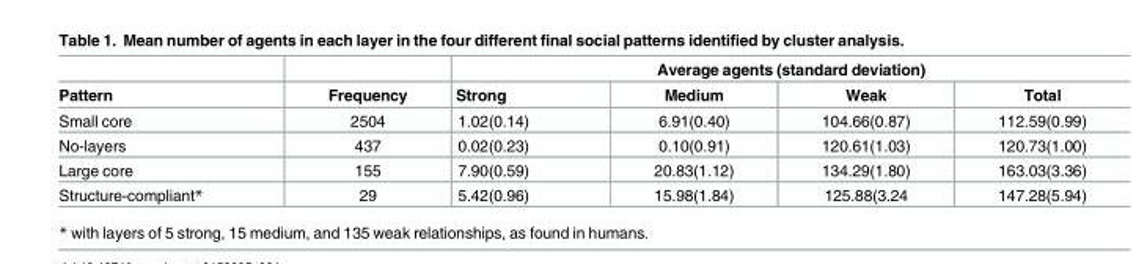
<table><thead><tr><td rowspan="2">Pattern</td><td rowspan="2">Frequency</td><td colspan="4">Average agents (standard deviation)</td></tr><tr><td>Strong</td><td>Medium</td><td>Weak</td><td>Total</td></tr></thead><tbody><tr><td>Small core</td><td>2504</td><td>1.02(0.14)</td><td>6.91(0.40)</td><td>104.66(0.87)</td><td>112.59(0.99)</td></tr><tr><td>No-layers</td><td>437</td><td>0.02(0.23)</td><td>0.10(0.91)</td><td>120.61(1.03)</td><td>120.73(1.00)</td></tr><tr><td>Large core</td><td>155</td><td>7.90(0.59)</td><td>20.83(1.12)</td><td>134.29(1.80)</td><td>163.03(3.36)</td></tr><tr><td>Structure-compliant*</td><td>29</td><td>5.42(0.96)</td><td>15.98(1.84)</td><td>125.88(3.24</td><td>147.28(5.94)</td></tr></tbody></table>